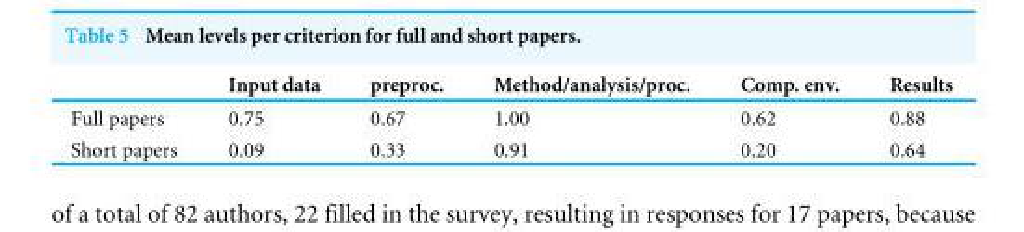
<table><thead><tr><td></td><td>Input data</td><td>preproc.</td><td>Method/analysis/proc.</td><td>Comp. env.</td><td>Results</td></tr></thead><tbody><tr><td>Full papers</td><td>0.75</td><td>0.67</td><td>1.00</td><td>0.62</td><td>0.88</td></tr><tr><td>Short papers</td><td>0.09</td><td>0.33</td><td>0.91</td><td>0.20</td><td>0.64</td></tr></tbody></table>